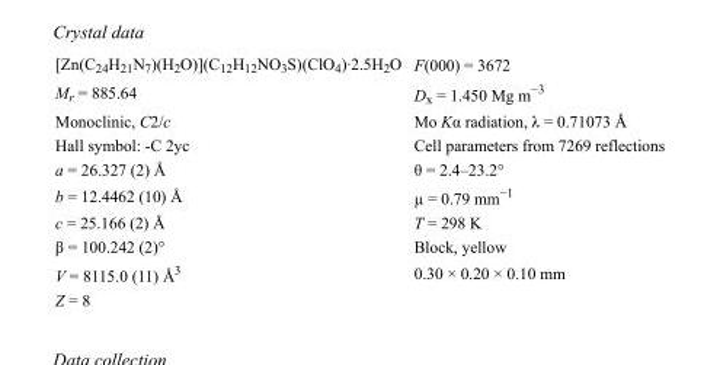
<table><tbody><tr><td>[Zn(C<sub>24</sub>H<sub>21</sub>N<sub>7</sub>)(H<sub>2</sub>O)](C<sub>12</sub>H<sub>12</sub>NO<sub>3</sub>S)(ClO<sub>4</sub>)·2.5H<sub>2</sub>O</td><td>F(000) = 3672</td></tr><tr><td>M<sub>r</sub> = 885.64</td><td>D<sub>x</sub> = 1.450 Mg m<sup>−3</sup></td></tr><tr><td>Monoclinic, C2/c</td><td>Mo Kα radiation, λ = 0.71073 Å</td></tr><tr><td>Hall symbol: -C 2yc</td><td>Cell parameters from 7269 reflections</td></tr><tr><td>a = 26.327 (2) Å</td><td>θ = 2.4–23.2°</td></tr><tr><td>b = 12.4462 (10) Å</td><td>µ = 0.79 mm<sup>−1</sup></td></tr><tr><td>c = 25.166 (2) Å</td><td>T = 298 K</td></tr><tr><td>β = 100.242 (2)°</td><td>Block, yellow</td></tr><tr><td>V = 8115.0 (11) Å<sup>3</sup></td><td>0.30 × 0.20 × 0.10 mm</td></tr><tr><td>Z = 8</td><td></td></tr></tbody></table>